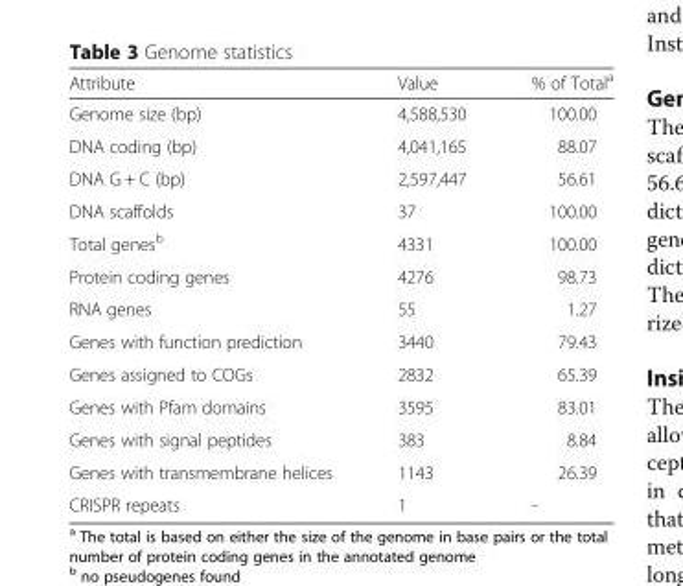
<table><thead><tr><td>Attribute</td><td>Value</td><td>% of Total<sup>a</sup></td></tr></thead><tbody><tr><td>Genome size (bp)</td><td>4,588,530</td><td>100.00</td></tr><tr><td>DNA coding (bp)</td><td>4,041,165</td><td>88.07</td></tr><tr><td>DNA G + C (bp)</td><td>2,597,447</td><td>56.61</td></tr><tr><td>DNA scaffolds</td><td>37</td><td>100.00</td></tr><tr><td>Total genes<sup>b</sup></td><td>4331</td><td>100.00</td></tr><tr><td>Protein coding genes</td><td>4276</td><td>98.73</td></tr><tr><td>RNA genes</td><td>55</td><td>1.27</td></tr><tr><td>Genes with function prediction</td><td>3440</td><td>79.43</td></tr><tr><td>Genes assigned to COGs</td><td>2832</td><td>65.39</td></tr><tr><td>Genes with Pfam domains</td><td>3595</td><td>83.01</td></tr><tr><td>Genes with signal peptides</td><td>383</td><td>8.84</td></tr><tr><td>Genes with transmembrane helices</td><td>1143</td><td>26.39</td></tr><tr><td>CRISPR repeats</td><td>1</td><td>-</td></tr></tbody></table>